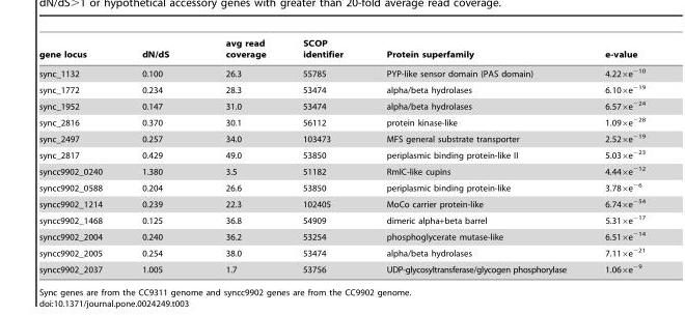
<table><thead><tr><td>gene locus</td><td>dN/dS</td><td>avg read coverage</td><td>SCOP identifier</td><td>Protein superfamily</td><td>e-value</td></tr></thead><tbody><tr><td>sync_1132</td><td>0.100</td><td>26.3</td><td>55785</td><td>PYP-like sensor domain (PAS domain)</td><td>4.22×e<sup>−10</sup></td></tr><tr><td>sync_1772</td><td>0.234</td><td>28.3</td><td>53474</td><td>alpha/beta hydrolases</td><td>6.10×e<sup>−19</sup></td></tr><tr><td>sync_1952</td><td>0.147</td><td>31.0</td><td>53474</td><td>alpha/beta hydrolases</td><td>6.57×e<sup>−24</sup></td></tr><tr><td>sync_2816</td><td>0.370</td><td>30.1</td><td>56112</td><td>protein kinase-like</td><td>1.09×e<sup>−28</sup></td></tr><tr><td>sync_2497</td><td>0.257</td><td>34.0</td><td>103473</td><td>MFS general substrate transporter</td><td>2.52×e<sup>−19</sup></td></tr><tr><td>sync_2817</td><td>0.429</td><td>49.0</td><td>53850</td><td>periplasmic binding protein-like II</td><td>5.03×e<sup>−23</sup></td></tr><tr><td>syncc9902_0240</td><td>1.380</td><td>3.5</td><td>51182</td><td>RmlC-like cupins</td><td>4.44×e<sup>−12</sup></td></tr><tr><td>syncc9902_0588</td><td>0.204</td><td>26.6</td><td>53850</td><td>periplasmic binding protein-like</td><td>3.78×e<sup>−6</sup></td></tr><tr><td>syncc9902_1214</td><td>0.239</td><td>22.3</td><td>102405</td><td>MoCo carrier protein-like</td><td>6.74×e<sup>−54</sup></td></tr><tr><td>syncc9902_1468</td><td>0.125</td><td>36.8</td><td>54909</td><td>dimeric alpha+beta barrel</td><td>5.31×e<sup>−17</sup></td></tr><tr><td>syncc9902_2004</td><td>0.240</td><td>36.2</td><td>53254</td><td>phosphoglycerate mutase-like</td><td>6.51×e<sup>−14</sup></td></tr><tr><td>syncc9902_2005</td><td>0.254</td><td>38.0</td><td>53474</td><td>alpha/beta hydrolases</td><td>7.11×e<sup>−21</sup></td></tr><tr><td>syncc9902_2037</td><td>1.005</td><td>1.7</td><td>53756</td><td>UDP-glycosyltransferase/glycogen phosphorylase</td><td>1.06×e<sup>−9</sup></td></tr></tbody></table>